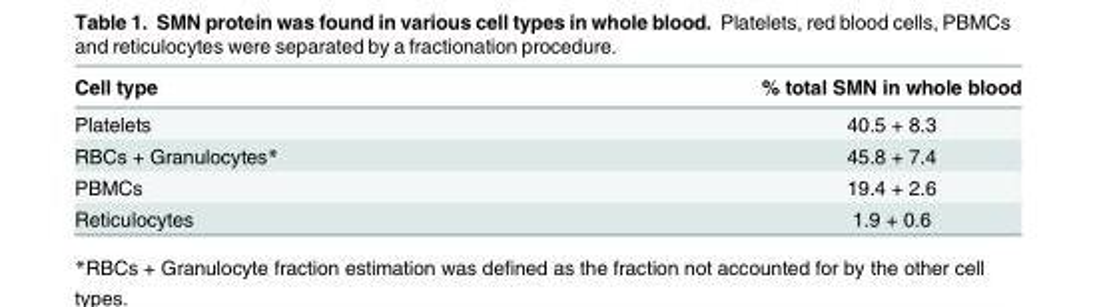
<table><thead><tr><td>Cell type</td><td>% total SMN in whole blood</td></tr></thead><tbody><tr><td>Platelets</td><td>40.5 + 8.3</td></tr><tr><td>RBCs + Granulocytes*</td><td>45.8 + 7.4</td></tr><tr><td>PBMCs</td><td>19.4 + 2.6</td></tr><tr><td>Reticulocytes</td><td>1.9 + 0.6</td></tr></tbody></table>